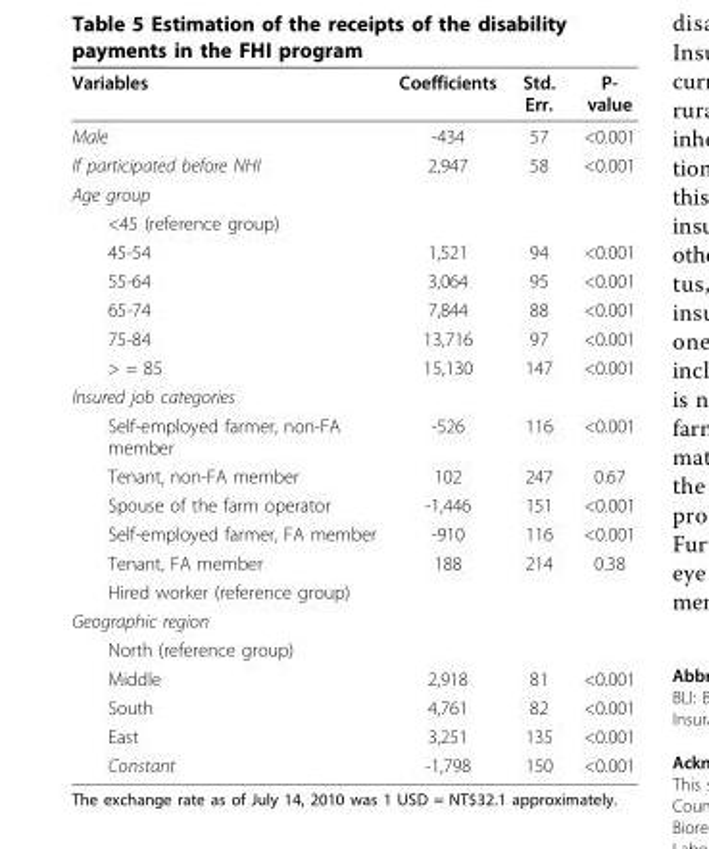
<table><thead><tr><td>Variables</td><td>Coefficients</td><td>Std. Err.</td><td>P- value</td></tr></thead><tbody><tr><td>Male</td><td>-434</td><td>57</td><td>&lt;0.001</td></tr><tr><td>If participated before NHI</td><td>2,947</td><td>58</td><td>&lt;0.001</td></tr><tr><td colspan="4">Age group</td></tr><tr><td colspan="4">&lt;45 (reference group)</td></tr><tr><td>45-54</td><td>1,521</td><td>94</td><td>&lt;0.001</td></tr><tr><td>55-64</td><td>3,064</td><td>95</td><td>&lt;0.001</td></tr><tr><td>65-74</td><td>7,844</td><td>88</td><td>&lt;0.001</td></tr><tr><td>75-84</td><td>13,716</td><td>97</td><td>&lt;0.001</td></tr><tr><td>&gt; = 85</td><td>15,130</td><td>147</td><td>&lt;0.001</td></tr><tr><td colspan="4">Insured job categories</td></tr><tr><td>Self-employed farmer, non-FA member</td><td>-526</td><td>116</td><td>&lt;0.001</td></tr><tr><td>Tenant, non-FA member</td><td>102</td><td>247</td><td>0.67</td></tr><tr><td>Spouse of the farm operator</td><td>-1,446</td><td>151</td><td>&lt;0.001</td></tr><tr><td>Self-employed farmer, FA member</td><td>-910</td><td>116</td><td>&lt;0.001</td></tr><tr><td>Tenant, FA member</td><td>188</td><td>214</td><td>0.38</td></tr><tr><td colspan="4">Hired worker (reference group)</td></tr><tr><td colspan="4">Geographic region</td></tr><tr><td colspan="4">North (reference group)</td></tr><tr><td>Middle</td><td>2,918</td><td>81</td><td>&lt;0.001</td></tr><tr><td>South</td><td>4,761</td><td>82</td><td>&lt;0.001</td></tr><tr><td>East</td><td>3,251</td><td>135</td><td>&lt;0.001</td></tr><tr><td>Constant</td><td>-1,798</td><td>150</td><td>&lt;0.001</td></tr></tbody></table>